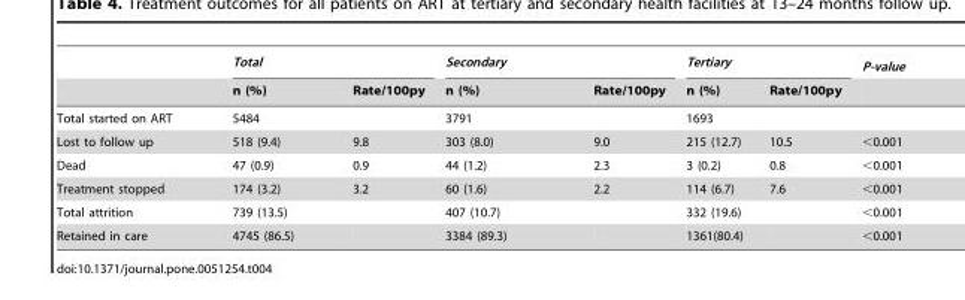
<table><thead><tr><td rowspan="2"></td><td colspan="2">Total</td><td colspan="2">Secondary</td><td colspan="2">Tertiary</td><td rowspan="2">P-value</td></tr><tr><td>n (%)</td><td>Rate/100py</td><td>n (%)</td><td>Rate/100py</td><td>n (%)</td><td>Rate/100py</td></tr></thead><tbody><tr><td>Total started on ART</td><td>5484</td><td></td><td>3791</td><td></td><td>1693</td><td></td><td></td></tr><tr><td>Lost to follow up</td><td>518 (9.4)</td><td>9.8</td><td>303 (8.0)</td><td>9.0</td><td>215 (12.7)</td><td>10.5</td><td>&lt;0.001</td></tr><tr><td>Dead</td><td>47 (0.9)</td><td>0.9</td><td>44 (1.2)</td><td>2.3</td><td>3 (0.2)</td><td>0.8</td><td>&lt;0.001</td></tr><tr><td>Treatment stopped</td><td>174 (3.2)</td><td>3.2</td><td>60 (1.6)</td><td>2.2</td><td>114 (6.7)</td><td>7.6</td><td>&lt;0.001</td></tr><tr><td>Total attrition</td><td>739 (13.5)</td><td></td><td>407 (10.7)</td><td></td><td>332 (19.6)</td><td></td><td>&lt;0.001</td></tr><tr><td>Retained in care</td><td>4745 (86.5)</td><td></td><td>3384 (89.3)</td><td></td><td>1361(80.4)</td><td></td><td>&lt;0.001</td></tr></tbody></table>